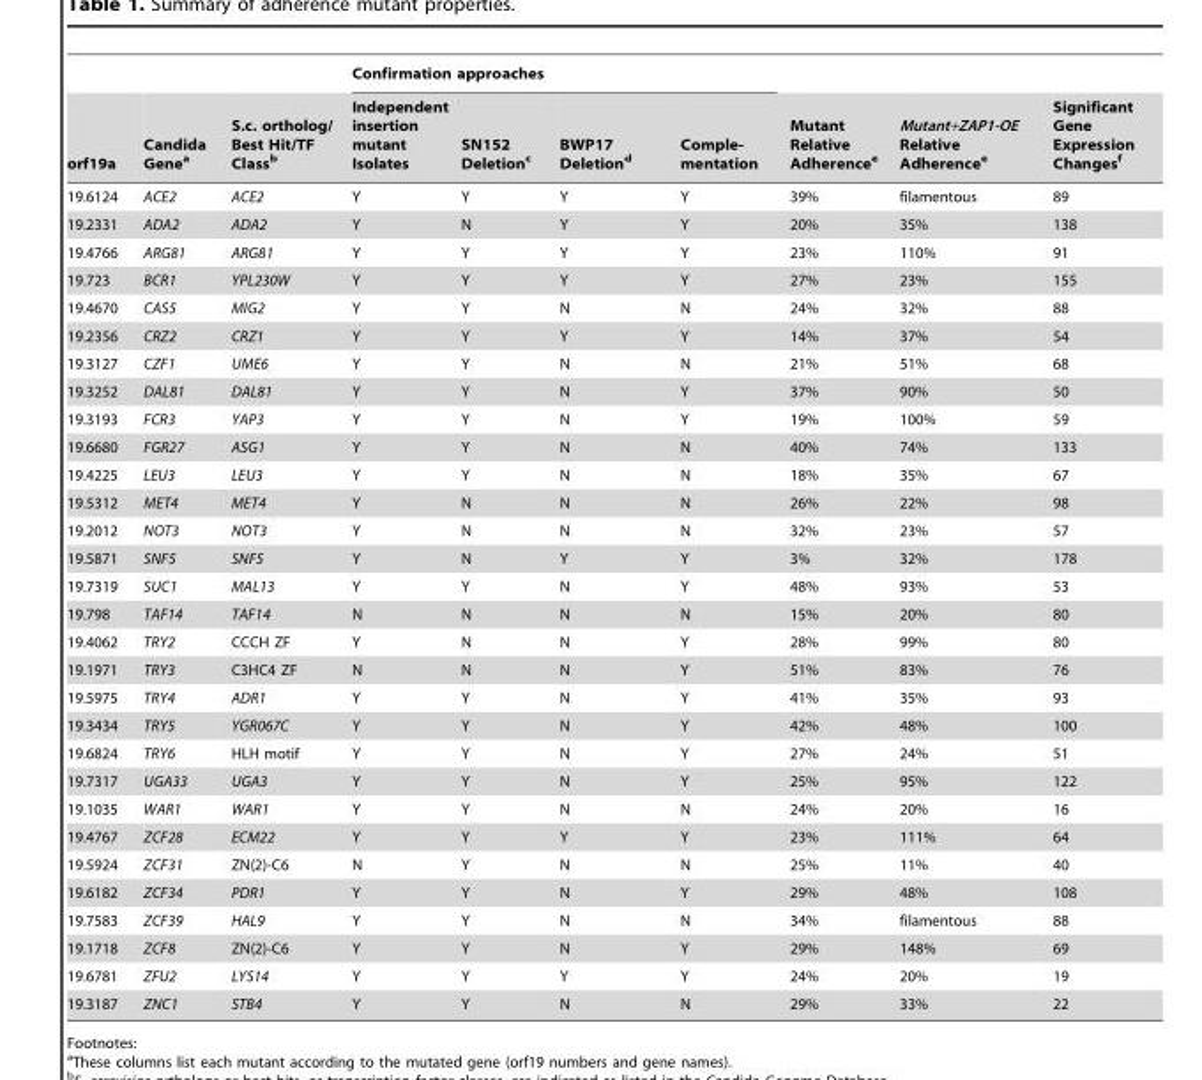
<table><thead><tr><td rowspan="2">orf19a</td><td rowspan="2">Candida Gene<sup>a</sup></td><td rowspan="2">S.c. ortholog/ Best Hit/TF Class<sup>b</sup></td><td colspan="4">Confirmation approaches</td><td rowspan="2">Mutant Relative Adherence<sup>e</sup></td><td rowspan="2">Mutant+ZAP1-OE Relative Adherence<sup>e</sup></td><td rowspan="2">Significant Gene Expression Changes<sup>f</sup></td></tr><tr><td>Independent insertion mutant Isolates</td><td>SN152 Deletion<sup>c</sup></td><td>BWP17 Deletion<sup>d</sup></td><td>Comple- mentation</td></tr></thead><tbody><tr><td>19.6124</td><td>ACE2</td><td>ACE2</td><td>Y</td><td>Y</td><td>Y</td><td>Y</td><td>39%</td><td>filamentous</td><td>89</td></tr><tr><td>19.2331</td><td>ADA2</td><td>ADA2</td><td>Y</td><td>N</td><td>Y</td><td>Y</td><td>20%</td><td>35%</td><td>138</td></tr><tr><td>19.4766</td><td>ARG81</td><td>ARG81</td><td>Y</td><td>Y</td><td>Y</td><td>Y</td><td>23%</td><td>110%</td><td>91</td></tr><tr><td>19.723</td><td>BCR1</td><td>YPL230W</td><td>Y</td><td>Y</td><td>Y</td><td>Y</td><td>27%</td><td>23%</td><td>155</td></tr><tr><td>19.4670</td><td>CAS5</td><td>MIG2</td><td>Y</td><td>Y</td><td>N</td><td>N</td><td>24%</td><td>32%</td><td>88</td></tr><tr><td>19.2356</td><td>CRZ2</td><td>CRZ1</td><td>Y</td><td>Y</td><td>Y</td><td>Y</td><td>14%</td><td>37%</td><td>54</td></tr><tr><td>19.3127</td><td>CZF1</td><td>UME6</td><td>Y</td><td>Y</td><td>N</td><td>N</td><td>21%</td><td>51%</td><td>68</td></tr><tr><td>19.3252</td><td>DAL81</td><td>DAL81</td><td>Y</td><td>Y</td><td>N</td><td>Y</td><td>37%</td><td>90%</td><td>50</td></tr><tr><td>19.3193</td><td>FCR3</td><td>YAP3</td><td>Y</td><td>Y</td><td>N</td><td>Y</td><td>19%</td><td>100%</td><td>59</td></tr><tr><td>19.6680</td><td>FGR27</td><td>ASG1</td><td>Y</td><td>Y</td><td>N</td><td>N</td><td>40%</td><td>74%</td><td>133</td></tr><tr><td>19.4225</td><td>LEU3</td><td>LEU3</td><td>Y</td><td>Y</td><td>N</td><td>N</td><td>18%</td><td>35%</td><td>67</td></tr><tr><td>19.5312</td><td>MET4</td><td>MET4</td><td>Y</td><td>N</td><td>N</td><td>N</td><td>26%</td><td>22%</td><td>98</td></tr><tr><td>19.2012</td><td>NOT3</td><td>NOT3</td><td>Y</td><td>N</td><td>N</td><td>N</td><td>32%</td><td>23%</td><td>57</td></tr><tr><td>19.5871</td><td>SNF5</td><td>SNF5</td><td>Y</td><td>N</td><td>Y</td><td>Y</td><td>3%</td><td>32%</td><td>178</td></tr><tr><td>19.7319</td><td>SUC1</td><td>MAL13</td><td>Y</td><td>Y</td><td>N</td><td>Y</td><td>48%</td><td>93%</td><td>53</td></tr><tr><td>19.798</td><td>TAF14</td><td>TAF14</td><td>N</td><td>N</td><td>N</td><td>N</td><td>15%</td><td>20%</td><td>80</td></tr><tr><td>19.4062</td><td>TRY2</td><td>CCCH ZF</td><td>Y</td><td>N</td><td>N</td><td>Y</td><td>28%</td><td>99%</td><td>80</td></tr><tr><td>19.1971</td><td>TRY3</td><td>C3HC4 ZF</td><td>N</td><td>N</td><td>N</td><td>Y</td><td>51%</td><td>83%</td><td>76</td></tr><tr><td>19.5975</td><td>TRY4</td><td>ADR1</td><td>Y</td><td>Y</td><td>N</td><td>Y</td><td>41%</td><td>35%</td><td>93</td></tr><tr><td>19.3434</td><td>TRY5</td><td>YGR067C</td><td>Y</td><td>Y</td><td>N</td><td>Y</td><td>42%</td><td>48%</td><td>100</td></tr><tr><td>19.6824</td><td>TRY6</td><td>HLH motif</td><td>Y</td><td>Y</td><td>N</td><td>Y</td><td>27%</td><td>24%</td><td>51</td></tr><tr><td>19.7317</td><td>UGA33</td><td>UGA3</td><td>Y</td><td>Y</td><td>N</td><td>Y</td><td>25%</td><td>95%</td><td>122</td></tr><tr><td>19.1035</td><td>WAR1</td><td>WAR1</td><td>Y</td><td>Y</td><td>N</td><td>N</td><td>24%</td><td>20%</td><td>16</td></tr><tr><td>19.4767</td><td>ZCF28</td><td>ECM22</td><td>Y</td><td>Y</td><td>Y</td><td>Y</td><td>23%</td><td>111%</td><td>64</td></tr><tr><td>19.5924</td><td>ZCF31</td><td>ZN(2)-C6</td><td>N</td><td>Y</td><td>N</td><td>N</td><td>25%</td><td>11%</td><td>40</td></tr><tr><td>19.6182</td><td>ZCF34</td><td>PDR1</td><td>Y</td><td>Y</td><td>N</td><td>Y</td><td>29%</td><td>48%</td><td>108</td></tr><tr><td>19.7583</td><td>ZCF39</td><td>HAL9</td><td>Y</td><td>Y</td><td>N</td><td>N</td><td>34%</td><td>filamentous</td><td>88</td></tr><tr><td>19.1718</td><td>ZCF8</td><td>ZN(2)-C6</td><td>Y</td><td>Y</td><td>N</td><td>Y</td><td>29%</td><td>148%</td><td>69</td></tr><tr><td>19.6781</td><td>ZFU2</td><td>LYS14</td><td>Y</td><td>Y</td><td>Y</td><td>Y</td><td>24%</td><td>20%</td><td>19</td></tr><tr><td>19.3187</td><td>ZNC1</td><td>STB4</td><td>Y</td><td>Y</td><td>N</td><td>N</td><td>29%</td><td>33%</td><td>22</td></tr></tbody></table>